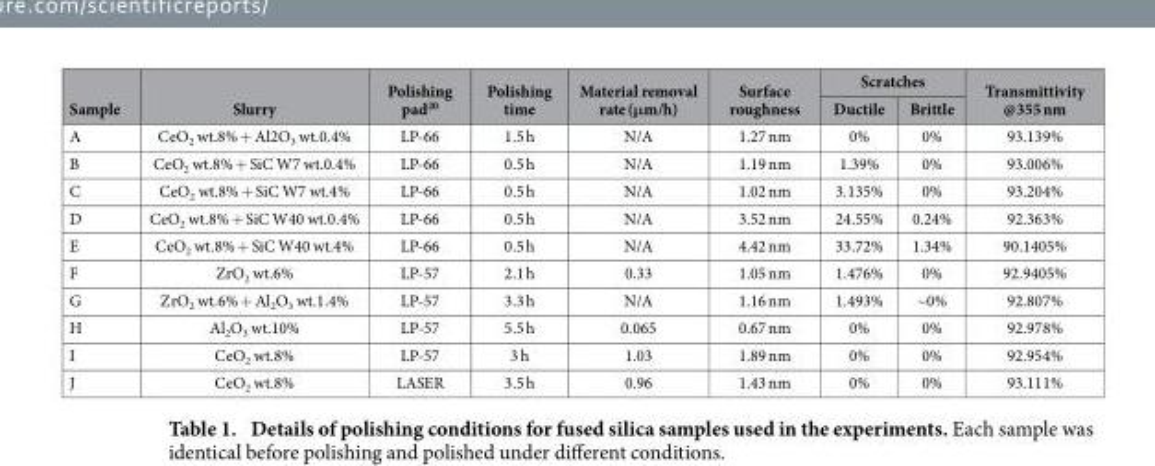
<table><thead><tr><td rowspan="2">Sample</td><td rowspan="2">Slurry</td><td rowspan="2">Polishing pad<sup>20</sup></td><td rowspan="2">Polishing time</td><td rowspan="2">Material removal rate (μm/h)</td><td rowspan="2">Surface roughness</td><td colspan="2">Scratches</td><td rowspan="2">Transmittivity @355 nm</td></tr><tr><td>Ductile</td><td>Brittle</td></tr></thead><tbody><tr><td>A</td><td>CeO<sub>2</sub> wt.8% + Al2O<sub>3</sub> wt.0.4%</td><td>LP-66</td><td>1.5 h</td><td>N/A</td><td>1.27 nm</td><td>0%</td><td>0%</td><td>93.139%</td></tr><tr><td>B</td><td>CeO<sub>2</sub> wt.8% + SiC W7 wt.0.4%</td><td>LP-66</td><td>0.5 h</td><td>N/A</td><td>1.19 nm</td><td>1.39%</td><td>0%</td><td>93.006%</td></tr><tr><td>C</td><td>CeO<sub>2</sub> wt.8% + SiC W7 wt.4%</td><td>LP-66</td><td>0.5 h</td><td>N/A</td><td>1.02 nm</td><td>3.135%</td><td>0%</td><td>93.204%</td></tr><tr><td>D</td><td>CeO<sub>2</sub> wt.8% + SiC W40 wt.0.4%</td><td>LP-66</td><td>0.5 h</td><td>N/A</td><td>3.52 nm</td><td>24.55%</td><td>0.24%</td><td>92.363%</td></tr><tr><td>E</td><td>CeO<sub>2</sub> wt.8% + SiC W40 wt.4%</td><td>LP-66</td><td>0.5 h</td><td>N/A</td><td>4.42 nm</td><td>33.72%</td><td>1.34%</td><td>90.1405%</td></tr><tr><td>F</td><td>ZrO<sub>2</sub> wt.6%</td><td>LP-57</td><td>2.1 h</td><td>0.33</td><td>1.05 nm</td><td>1.476%</td><td>0%</td><td>92.9405%</td></tr><tr><td>G</td><td>ZrO<sub>2</sub> wt.6% + Al<sub>2</sub>O<sub>3</sub> wt.1.4%</td><td>LP-57</td><td>3.3 h</td><td>N/A</td><td>1.16 nm</td><td>1.493%</td><td>~0%</td><td>92.807%</td></tr><tr><td>H</td><td>Al<sub>2</sub>O<sub>3</sub> wt.10%</td><td>LP-57</td><td>5.5 h</td><td>0.065</td><td>0.67 nm</td><td>0%</td><td>0%</td><td>92.978%</td></tr><tr><td>I</td><td>CeO<sub>2</sub> wt.8%</td><td>LP-57</td><td>3 h</td><td>1.03</td><td>1.89 nm</td><td>0%</td><td>0%</td><td>92.954%</td></tr><tr><td>J</td><td>CeO<sub>2</sub> wt.8%</td><td>LASER</td><td>3.5 h</td><td>0.96</td><td>1.43 nm</td><td>0%</td><td>0%</td><td>93.111%</td></tr></tbody></table>